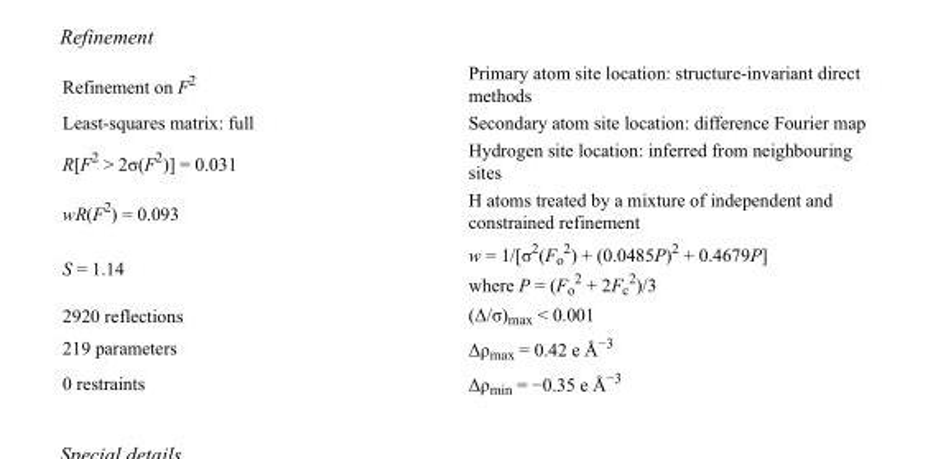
<table><tbody><tr><td>Refinement on F<sup>2</sup></td><td>Primary atom site location: structure-invariant direct methods</td></tr><tr><td>Least-squares matrix: full</td><td>Secondary atom site location: difference Fourier map</td></tr><tr><td>R[F<sup>2</sup> &gt; 2σ(F<sup>2</sup>)] = 0.031</td><td>Hydrogen site location: inferred from neighbouring sites</td></tr><tr><td>wR(F<sup>2</sup>) = 0.093</td><td>H atoms treated by a mixture of independent and constrained refinement</td></tr><tr><td>S = 1.14</td><td>w = 1/[σ<sup>2</sup>(F<sub>o</sub> <sup>2</sup>) + (0.0485P)<sup>2</sup> + 0.4679P] where P = (F<sub>o</sub> <sup>2</sup> + 2F<sub>c</sub> <sup>2</sup>)/3</td></tr><tr><td>2920 reflections</td><td>(Δ/σ)<sub>max</sub> &lt; 0.001</td></tr><tr><td>219 parameters</td><td>Δρ<sub>max</sub> = 0.42 e Å<sup>−3</sup></td></tr><tr><td>0 restraints</td><td>Δρ<sub>min</sub> = −0.35 e Å<sup>−3</sup></td></tr></tbody></table>